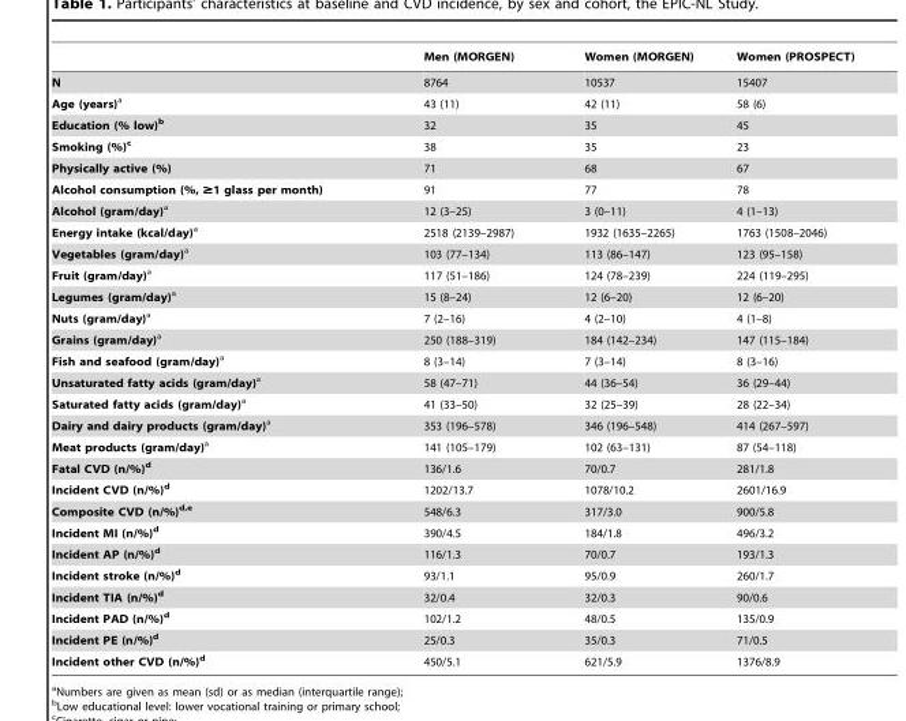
<table><thead><tr><td></td><td>Men (MORGEN)</td><td>Women (MORGEN)</td><td>Women (PROSPECT)</td></tr></thead><tbody><tr><td>N</td><td>8764</td><td>10537</td><td>15407</td></tr><tr><td>Age (years)a</td><td>43 (11)</td><td>42 (11)</td><td>58 (6)</td></tr><tr><td>Education (% low)b</td><td>32</td><td>35</td><td>45</td></tr><tr><td>Smoking (%)c</td><td>38</td><td>35</td><td>23</td></tr><tr><td>Physically active (%)</td><td>71</td><td>68</td><td>67</td></tr><tr><td>Alcohol consumption (%, ≥1 glass per month)</td><td>91</td><td>77</td><td>78</td></tr><tr><td>Alcohol (gram/day)a</td><td>12 (3–25)</td><td>3 (0–11)</td><td>4 (1–13)</td></tr><tr><td>Energy intake (kcal/day)a</td><td>2518 (2139–2987)</td><td>1932 (1635–2265)</td><td>1763 (1508–2046)</td></tr><tr><td>Vegetables (gram/day)a</td><td>103 (77–134)</td><td>113 (86–147)</td><td>123 (95–158)</td></tr><tr><td>Fruit (gram/day)a</td><td>117 (51–186)</td><td>124 (78–239)</td><td>224 (119–295)</td></tr><tr><td>Legumes (gram/day)a</td><td>15 (8–24)</td><td>12 (6–20)</td><td>12 (6–20)</td></tr><tr><td>Nuts (gram/day)a</td><td>7 (2–16)</td><td>4 (2–10)</td><td>4 (1–8)</td></tr><tr><td>Grains (gram/day)a</td><td>250 (188–319)</td><td>184 (142–234)</td><td>147 (115–184)</td></tr><tr><td>Fish and seafood (gram/day)a</td><td>8 (3–14)</td><td>7 (3–14)</td><td>8 (3–16)</td></tr><tr><td>Unsaturated fatty acids (gram/day)a</td><td>58 (47–71)</td><td>44 (36–54)</td><td>36 (29–44)</td></tr><tr><td>Saturated fatty acids (gram/day)a</td><td>41 (33–50)</td><td>32 (25–39)</td><td>28 (22–34)</td></tr><tr><td>Dairy and dairy products (gram/day)a</td><td>353 (196–578)</td><td>346 (196–548)</td><td>414 (267–597)</td></tr><tr><td>Meat products (gram/day)a</td><td>141 (105–179)</td><td>102 (63–131)</td><td>87 (54–118)</td></tr><tr><td>Fatal CVD (n/%)d</td><td>136/1.6</td><td>70/0.7</td><td>281/1.8</td></tr><tr><td>Incident CVD (n/%)d</td><td>1202/13.7</td><td>1078/10.2</td><td>2601/16.9</td></tr><tr><td>Composite CVD (n/%)d,e</td><td>548/6.3</td><td>317/3.0</td><td>900/5.8</td></tr><tr><td>Incident MI (n/%)d</td><td>390/4.5</td><td>184/1.8</td><td>496/3.2</td></tr><tr><td>Incident AP (n/%)d</td><td>116/1.3</td><td>70/0.7</td><td>193/1.3</td></tr><tr><td>Incident stroke (n/%)d</td><td>93/1.1</td><td>95/0.9</td><td>260/1.7</td></tr><tr><td>Incident TIA (n/%)d</td><td>32/0.4</td><td>32/0.3</td><td>90/0.6</td></tr><tr><td>Incident PAD (n/%)d</td><td>102/1.2</td><td>48/0.5</td><td>135/0.9</td></tr><tr><td>Incident PE (n/%)d</td><td>25/0.3</td><td>35/0.3</td><td>71/0.5</td></tr><tr><td>Incident other CVD (n/%)d</td><td>450/5.1</td><td>621/5.9</td><td>1376/8.9</td></tr></tbody></table>